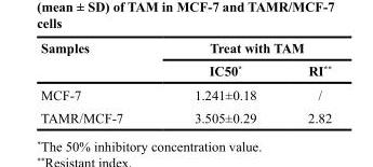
<table><thead><tr><td rowspan="2">Samples</td><td colspan="2">Treat with TAM</td></tr><tr><td>IC50*</td><td>RI**</td></tr></thead><tbody><tr><td>MCF-7</td><td>1.241±0.18</td><td>/</td></tr><tr><td>TAMR/MCF-7</td><td>3.505±0.29</td><td>2.82</td></tr></tbody></table>